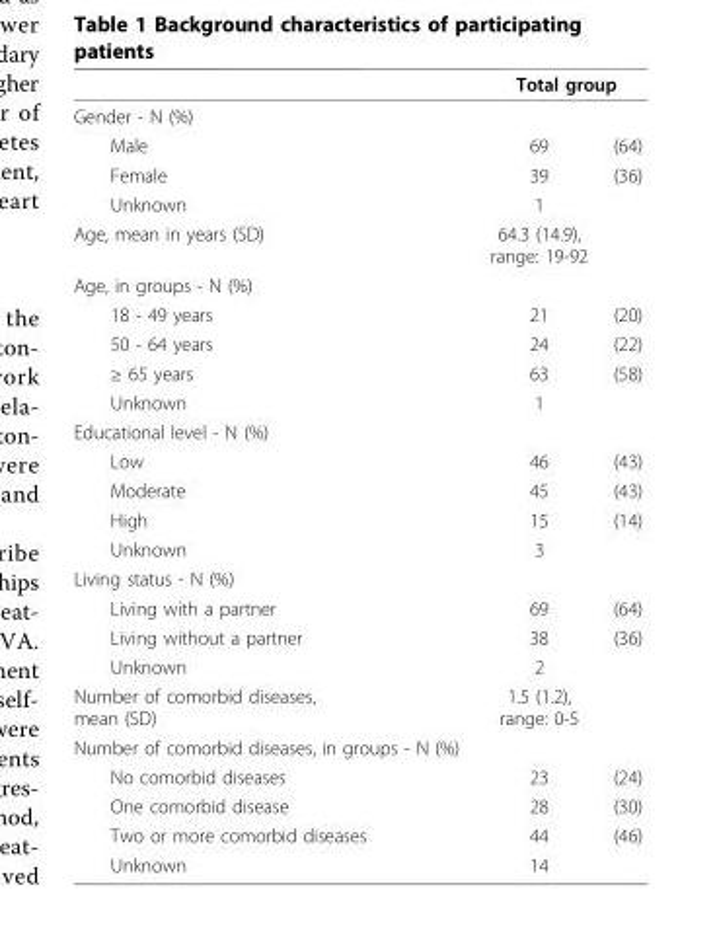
<table><thead><tr><td rowspan="3">Gender - N (%) Male</td><td rowspan="2" colspan="2">Total group</td></tr><tr></tr><tr><td>69</td><td>(64)</td></tr></thead><tbody><tr><td>Female</td><td>39</td><td>(36)</td></tr><tr><td>Unknown</td><td>1</td><td></td></tr><tr><td>Age, mean in years (SD)</td><td>64.3 (14.9), range: 19-92</td><td></td></tr><tr><td colspan="3">Age, in groups - N (%)</td></tr><tr><td>18 - 49 years</td><td>21</td><td>(20)</td></tr><tr><td>50 - 64 years</td><td>24</td><td>(22)</td></tr><tr><td>≥ 65 years</td><td>63</td><td>(58)</td></tr><tr><td>Unknown</td><td>1</td><td></td></tr><tr><td colspan="3">Educational level - N (%)</td></tr><tr><td>Low</td><td>46</td><td>(43)</td></tr><tr><td>Moderate</td><td>45</td><td>(43)</td></tr><tr><td>High</td><td>15</td><td>(14)</td></tr><tr><td>Unknown</td><td>3</td><td></td></tr><tr><td colspan="3">Living status - N (%)</td></tr><tr><td>Living with a partner</td><td>69</td><td>(64)</td></tr><tr><td>Living without a partner</td><td>38</td><td>(36)</td></tr><tr><td>Unknown</td><td>2</td><td></td></tr><tr><td>Number of comorbid diseases, mean (SD)</td><td>1.5 (1.2), range: 0-5</td><td></td></tr><tr><td colspan="3">Number of comorbid diseases, in groups - N (%)</td></tr><tr><td>No comorbid diseases</td><td>23</td><td>(24)</td></tr><tr><td>One comorbid disease</td><td>28</td><td>(30)</td></tr><tr><td>Two or more comorbid diseases</td><td>44</td><td>(46)</td></tr><tr><td>Unknown</td><td>14</td><td></td></tr></tbody></table>